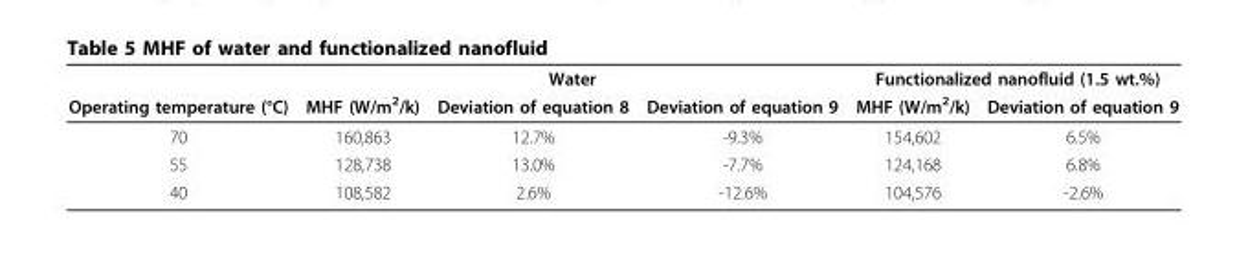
<table><thead><tr><td rowspan="2">Operating temperature (°C)</td><td colspan="3">Water</td><td colspan="2">Functionalized nanofluid (1.5 wt.%)</td></tr><tr><td>MHF (W/m<sup>2</sup>/k)</td><td>Deviation of equation 8</td><td>Deviation of equation 9</td><td>MHF (W/m<sup>2</sup>/k)</td><td>Deviation of equation 9</td></tr></thead><tbody><tr><td>70</td><td>160,863</td><td>12.7%</td><td>-9.3%</td><td>154,602</td><td>6.5%</td></tr><tr><td>55</td><td>128,738</td><td>13.0%</td><td>-7.7%</td><td>124,168</td><td>6.8%</td></tr><tr><td>40</td><td>108,582</td><td>2.6%</td><td>-12.6%</td><td>104,576</td><td>-2.6%</td></tr></tbody></table>